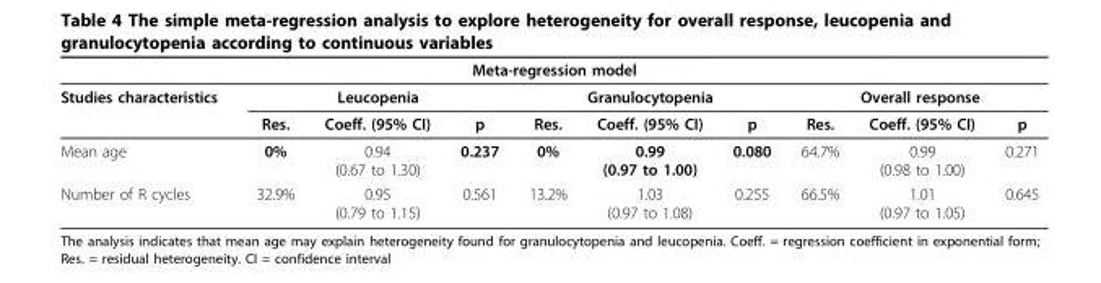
<table><thead><tr><td colspan="10">Meta-regression model</td></tr><tr><td rowspan="2">Studies characteristics</td><td colspan="3">Leucopenia</td><td colspan="3">Granulocytopenia</td><td colspan="3">Overall response</td></tr><tr><td>Res.</td><td>Coeff. (95% CI)</td><td>p</td><td>Res.</td><td>Coeff. (95% CI)</td><td>p</td><td>Res.</td><td>Coeff. (95% CI)</td><td>p</td></tr></thead><tbody><tr><td>Mean age</td><td>0%</td><td>0.94 (0.67 to 1.30)</td><td>0.237</td><td>0%</td><td>0.99 (0.97 to 1.00)</td><td>0.080</td><td>64.7%</td><td>0.99 (0.98 to 1.00)</td><td>0.271</td></tr><tr><td>Number of R cycles</td><td>32.9%</td><td>0.95 (0.79 to 1.15)</td><td>0.561</td><td>13.2%</td><td>1.03 (0.97 to 1.08)</td><td>0.255</td><td>66.5%</td><td>1.01 (0.97 to 1.05)</td><td>0.645</td></tr></tbody></table>